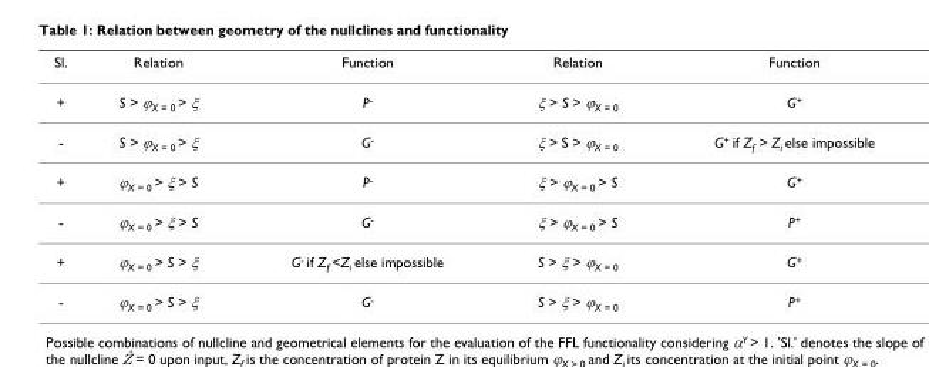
<table><thead><tr><td>Sl.</td><td>Relation</td><td>Function</td><td>Relation</td><td>Function</td></tr></thead><tbody><tr><td>+</td><td>S &gt; ϕ<sub>X = 0</sub> &gt; ξ</td><td>P<sup>-</sup></td><td>ξ &gt; S &gt; ϕ<sub>X = 0</sub></td><td>G<sup>+</sup></td></tr><tr><td>-</td><td>S &gt; ϕ<sub>X = 0</sub> &gt; ξ</td><td>G<sup>-</sup></td><td>ξ &gt; S &gt; ϕ<sub>X = 0</sub></td><td>G<sup>+</sup> if Z<sub>f</sub> &gt; Z<sub>i</sub> else impossible</td></tr><tr><td>+</td><td>ϕ<sub>X = 0</sub> &gt; ξ &gt; S</td><td>P<sup>-</sup></td><td>ξ &gt; ϕ<sub>X = 0</sub> &gt; S</td><td>G<sup>+</sup></td></tr><tr><td>-</td><td>ϕ<sub>X = 0</sub> &gt; ξ &gt; S</td><td>G<sup>-</sup></td><td>ξ &gt; ϕ<sub>X = 0</sub> &gt; S</td><td>P<sup>+</sup></td></tr><tr><td>+</td><td>ϕ<sub>X = 0</sub> &gt; S &gt; ξ</td><td>G<sup>-</sup> if Z<sub>f</sub> &lt;Z<sub>i</sub> else impossible</td><td>S &gt; ξ &gt; ϕ<sub>X = 0</sub></td><td>G<sup>+</sup></td></tr><tr><td>-</td><td>ϕ<sub>X = 0</sub> &gt; S &gt; ξ</td><td>G<sup>-</sup></td><td>S &gt; ξ &gt; ϕ<sub>X = 0</sub></td><td>P<sup>+</sup></td></tr></tbody></table>